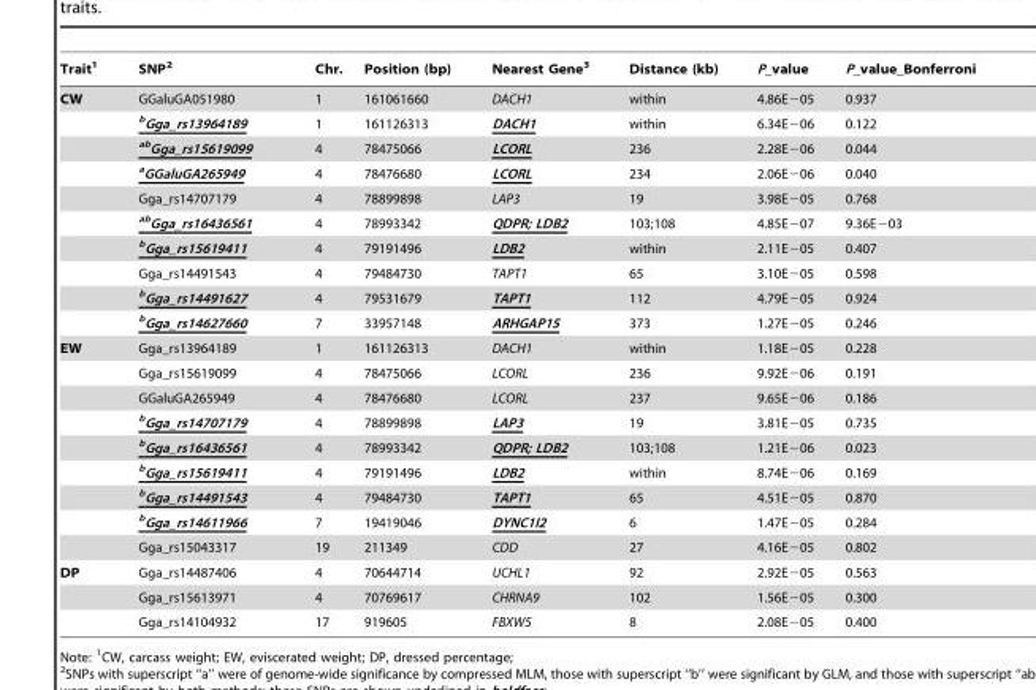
<table><thead><tr><td>Trait<sup>1</sup></td><td>SNP<sup>2</sup></td><td>Chr.</td><td>Position (bp)</td><td>Nearest Gene<sup>3</sup></td><td>Distance (kb)</td><td>P_value</td><td>P_value_Bonferroni</td></tr></thead><tbody><tr><td rowspan="10">CW</td><td>GGaluGA051980</td><td>1</td><td>161061660</td><td>DACH1</td><td>within</td><td>4.86E−05</td><td>0.937</td></tr><tr><td><sup>b</sup>Gga_rs13964189</td><td>1</td><td>161126313</td><td>DACH1</td><td>within</td><td>6.34E−06</td><td>0.122</td></tr><tr><td><sup>ab</sup>Gga_rs15619099</td><td>4</td><td>78475066</td><td>LCORL</td><td>236</td><td>2.28E−06</td><td>0.044</td></tr><tr><td><sup>a</sup>GGaluGA265949</td><td>4</td><td>78476680</td><td>LCORL</td><td>234</td><td>2.06E−06</td><td>0.040</td></tr><tr><td>Gga_rs14707179</td><td>4</td><td>78899898</td><td>LAP3</td><td>19</td><td>3.98E−05</td><td>0.768</td></tr><tr><td><sup>ab</sup>Gga_rs16436561</td><td>4</td><td>78993342</td><td>QDPR; LDB2</td><td>103;108</td><td>4.85E−07</td><td>9.36E−03</td></tr><tr><td><sup>b</sup>Gga_rs15619411</td><td>4</td><td>79191496</td><td>LDB2</td><td>within</td><td>2.11E−05</td><td>0.407</td></tr><tr><td>Gga_rs14491543</td><td>4</td><td>79484730</td><td>TAPT1</td><td>65</td><td>3.10E−05</td><td>0.598</td></tr><tr><td><sup>b</sup>Gga_rs14491627</td><td>4</td><td>79531679</td><td>TAPT1</td><td>112</td><td>4.79E−05</td><td>0.924</td></tr><tr><td><sup>b</sup>Gga_rs14627660</td><td>7</td><td>33957148</td><td>ARHGAP15</td><td>373</td><td>1.27E−05</td><td>0.246</td></tr><tr><td rowspan="9">EW</td><td>Gga_rs13964189</td><td>1</td><td>161126313</td><td>DACH1</td><td>within</td><td>1.18E−05</td><td>0.228</td></tr><tr><td>Gga_rs15619099</td><td>4</td><td>78475066</td><td>LCORL</td><td>236</td><td>9.92E−06</td><td>0.191</td></tr><tr><td>GGaluGA265949</td><td>4</td><td>78476680</td><td>LCORL</td><td>237</td><td>9.65E−06</td><td>0.186</td></tr><tr><td><sup>b</sup>Gga_rs14707179</td><td>4</td><td>78899898</td><td>LAP3</td><td>19</td><td>3.81E−05</td><td>0.735</td></tr><tr><td><sup>b</sup>Gga_rs16436561</td><td>4</td><td>78993342</td><td>QDPR; LDB2</td><td>103;108</td><td>1.21E−06</td><td>0.023</td></tr><tr><td><sup>b</sup>Gga_rs15619411</td><td>4</td><td>79191496</td><td>LDB2</td><td>within</td><td>8.74E−06</td><td>0.169</td></tr><tr><td><sup>b</sup>Gga_rs14491543</td><td>4</td><td>79484730</td><td>TAPT1</td><td>65</td><td>4.51E−05</td><td>0.870</td></tr><tr><td><sup>b</sup>Gga_rs14611966</td><td>7</td><td>19419046</td><td>DYNC1I2</td><td>6</td><td>1.47E−05</td><td>0.284</td></tr><tr><td>Gga_rs15043317</td><td>19</td><td>211349</td><td>CDD</td><td>27</td><td>4.16E−05</td><td>0.802</td></tr><tr><td rowspan="3">DP</td><td>Gga_rs14487406</td><td>4</td><td>70644714</td><td>UCHL1</td><td>92</td><td>2.92E−05</td><td>0.563</td></tr><tr><td>Gga_rs15613971</td><td>4</td><td>70769617</td><td>CHRNA9</td><td>102</td><td>1.56E−05</td><td>0.300</td></tr><tr><td>Gga_rs14104932</td><td>17</td><td>919605</td><td>FBXW5</td><td>8</td><td>2.08E−05</td><td>0.400</td></tr></tbody></table>